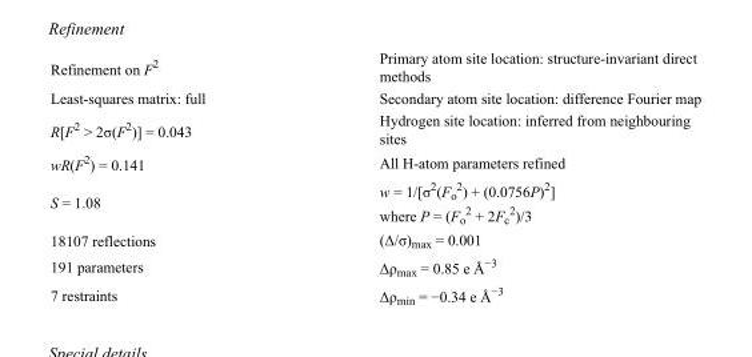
<table><tbody><tr><td>Refinement on F<sup>2</sup></td><td>Primary atom site location: structure-invariant direct methods</td></tr><tr><td>Least-squares matrix: full</td><td>Secondary atom site location: difference Fourier map</td></tr><tr><td>R[F<sup>2</sup> &gt; 2σ(F<sup>2</sup>)] = 0.043</td><td>Hydrogen site location: inferred from neighbouring sites</td></tr><tr><td>wR(F<sup>2</sup>) = 0.141</td><td>All H-atom parameters refined</td></tr><tr><td>S = 1.08</td><td>w = 1/[σ<sup>2</sup>(F<sub>o</sub> <sup>2</sup>) + (0.0756P)<sup>2</sup>] where P = (F<sub>o</sub> <sup>2</sup> + 2F<sub>c</sub> <sup>2</sup>)/3</td></tr><tr><td>18107 reflections</td><td>(Δ/σ)<sub>max</sub> = 0.001</td></tr><tr><td>191 parameters</td><td>Δρ<sub>max</sub> = 0.85 e Å<sup>−3</sup></td></tr><tr><td>7 restraints</td><td>Δρ<sub>min</sub> = −0.34 e Å<sup>−3</sup></td></tr></tbody></table>